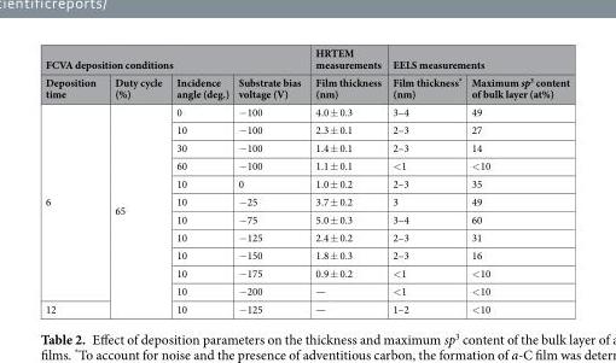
<table><thead><tr><td colspan="4">FCVA deposition conditions</td><td rowspan="2">HRTEM measurements Film thickness (nm)</td><td colspan="2">EELS measurements</td></tr><tr><td>Deposition time</td><td>Duty cycle (%)</td><td>Incidence angle (deg.)</td><td>Substrate bias voltage (V)</td><td>Film thickness* (nm)</td><td>Maximum sp<sup>3</sup> content of bulk layer (at%)</td></tr></thead><tbody><tr><td rowspan="11">6</td><td rowspan="12">65</td><td>0</td><td>−100</td><td>4.0 ± 0.3</td><td>3–4</td><td>49</td></tr><tr><td>10</td><td>−100</td><td>2.3 ± 0.1</td><td>2–3</td><td>27</td></tr><tr><td>30</td><td>−100</td><td>1.4 ± 0.1</td><td>2–3</td><td>14</td></tr><tr><td>60</td><td>−100</td><td>1.1 ± 0.1</td><td>&lt;1</td><td>&lt;10</td></tr><tr><td>10</td><td>0</td><td>1.0 ± 0.2</td><td>2–3</td><td>35</td></tr><tr><td>10</td><td>−25</td><td>3.7 ± 0.2</td><td>3</td><td>49</td></tr><tr><td>10</td><td>−75</td><td>5.0 ± 0.3</td><td>3–4</td><td>60</td></tr><tr><td>10</td><td>−125</td><td>2.4 ± 0.2</td><td>2–3</td><td>31</td></tr><tr><td>10</td><td>−150</td><td>1.8 ± 0.3</td><td>2–3</td><td>16</td></tr><tr><td>10</td><td>−175</td><td>0.9 ± 0.2</td><td>&lt;1</td><td>&lt;10</td></tr><tr><td>10</td><td>−200</td><td>—</td><td>&lt;1</td><td>&lt;10</td></tr><tr><td>12</td><td>10</td><td>−125</td><td>—</td><td>1–2</td><td>&lt;10</td></tr></tbody></table>